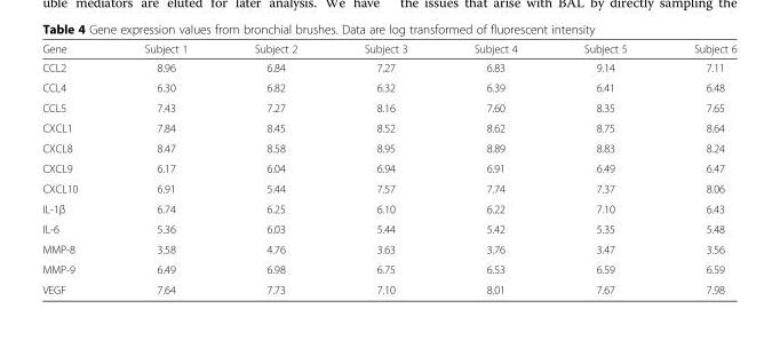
<table><thead><tr><td>Gene</td><td>Subject 1</td><td>Subject 2</td><td>Subject 3</td><td>Subject 4</td><td>Subject 5</td><td>Subject 6</td></tr></thead><tbody><tr><td>CCL2</td><td>8.96</td><td>6.84</td><td>7.27</td><td>6.83</td><td>9.14</td><td>7.11</td></tr><tr><td>CCL4</td><td>6.30</td><td>6.82</td><td>6.32</td><td>6.39</td><td>6.41</td><td>6.48</td></tr><tr><td>CCL5</td><td>7.43</td><td>7.27</td><td>8.16</td><td>7.60</td><td>8.35</td><td>7.65</td></tr><tr><td>CXCL1</td><td>7.84</td><td>8.45</td><td>8.52</td><td>8.62</td><td>8.75</td><td>8.64</td></tr><tr><td>CXCL8</td><td>8.47</td><td>8.58</td><td>8.95</td><td>8.89</td><td>8.83</td><td>8.24</td></tr><tr><td>CXCL9</td><td>6.17</td><td>6.04</td><td>6.94</td><td>6.91</td><td>6.49</td><td>6.47</td></tr><tr><td>CXCL10</td><td>6.91</td><td>5.44</td><td>7.57</td><td>7.74</td><td>7.37</td><td>8.06</td></tr><tr><td>IL-1β</td><td>6.74</td><td>6.25</td><td>6.10</td><td>6.22</td><td>7.10</td><td>6.43</td></tr><tr><td>IL-6</td><td>5.36</td><td>6.03</td><td>5.44</td><td>5.42</td><td>5.35</td><td>5.48</td></tr><tr><td>MMP-8</td><td>3.58</td><td>4.76</td><td>3.63</td><td>3.76</td><td>3.47</td><td>3.56</td></tr><tr><td>MMP-9</td><td>6.49</td><td>6.98</td><td>6.75</td><td>6.53</td><td>6.59</td><td>6.59</td></tr><tr><td>VEGF</td><td>7.64</td><td>7.73</td><td>7.10</td><td>8.01</td><td>7.67</td><td>7.98</td></tr></tbody></table>